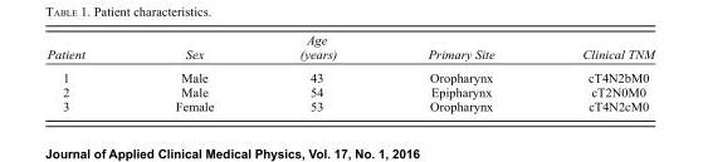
<table><thead><tr><td>Patient</td><td>Sex</td><td>(years)</td><td>Primary Site</td><td>Clinical TNM</td></tr></thead><tbody><tr><td>1</td><td>Male</td><td>43</td><td>Oropharynx</td><td>cT4N2bM0</td></tr><tr><td>2</td><td>Male</td><td>54</td><td>Epipharynx</td><td>cT2N0M0</td></tr><tr><td>3</td><td>Female</td><td>53</td><td>Oropharynx</td><td>cT4N2cM0</td></tr></tbody></table>